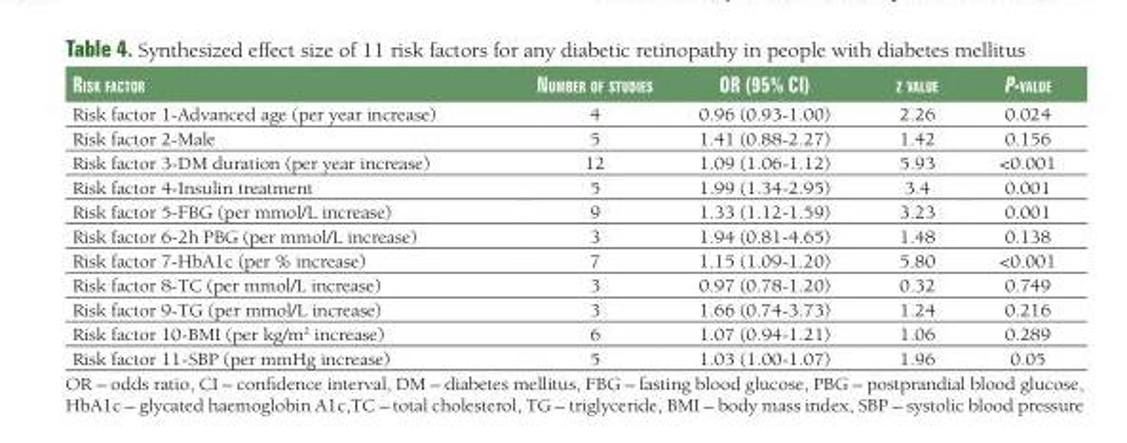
<table><thead><tr><td>Risk factoR</td><td>numbeR of studies</td><td>oR (95% ci)</td><td>z value</td><td>p-value</td></tr></thead><tbody><tr><td>Risk factor 1-Advanced age (per year increase)</td><td>4</td><td>0.96 (0.93-1.00)</td><td>2.26</td><td>0.024</td></tr><tr><td>Risk factor 2-Male</td><td>5</td><td>1.41 (0.88-2.27)</td><td>1.42</td><td>0.156</td></tr><tr><td>Risk factor 3-DM duration (per year increase)</td><td>12</td><td>1.09 (1.06-1.12)</td><td>5.93</td><td>&lt;0.001</td></tr><tr><td>Risk factor 4-Insulin treatment</td><td>5</td><td>1.99 (1.34-2.95)</td><td>3.4</td><td>0.001</td></tr><tr><td>Risk factor 5-FBG (per mmol/L increase)</td><td>9</td><td>1.33 (1.12-1.59)</td><td>3.23</td><td>0.001</td></tr><tr><td>Risk factor 6-2h PBG (per mmol/L increase)</td><td>3</td><td>1.94 (0.81-4.65)</td><td>1.48</td><td>0.138</td></tr><tr><td>Risk factor 7-HbA1c (per % increase)</td><td>7</td><td>1.15 (1.09-1.20)</td><td>5.80</td><td>&lt;0.001</td></tr><tr><td>Risk factor 8-TC (per mmol/L increase)</td><td>3</td><td>0.97 (0.78-1.20)</td><td>0.32</td><td>0.749</td></tr><tr><td>Risk factor 9-TG (per mmol/L increase)</td><td>3</td><td>1.66 (0.74-3.73)</td><td>1.24</td><td>0.216</td></tr><tr><td>Risk factor 10-BMI (per kg/m<sup>2</sup> increase)</td><td>6</td><td>1.07 (0.94-1.21)</td><td>1.06</td><td>0.289</td></tr><tr><td>Risk factor 11-SBP (per mmHg increase)</td><td>5</td><td>1.03 (1.00-1.07)</td><td>1.96</td><td>0.05</td></tr></tbody></table>